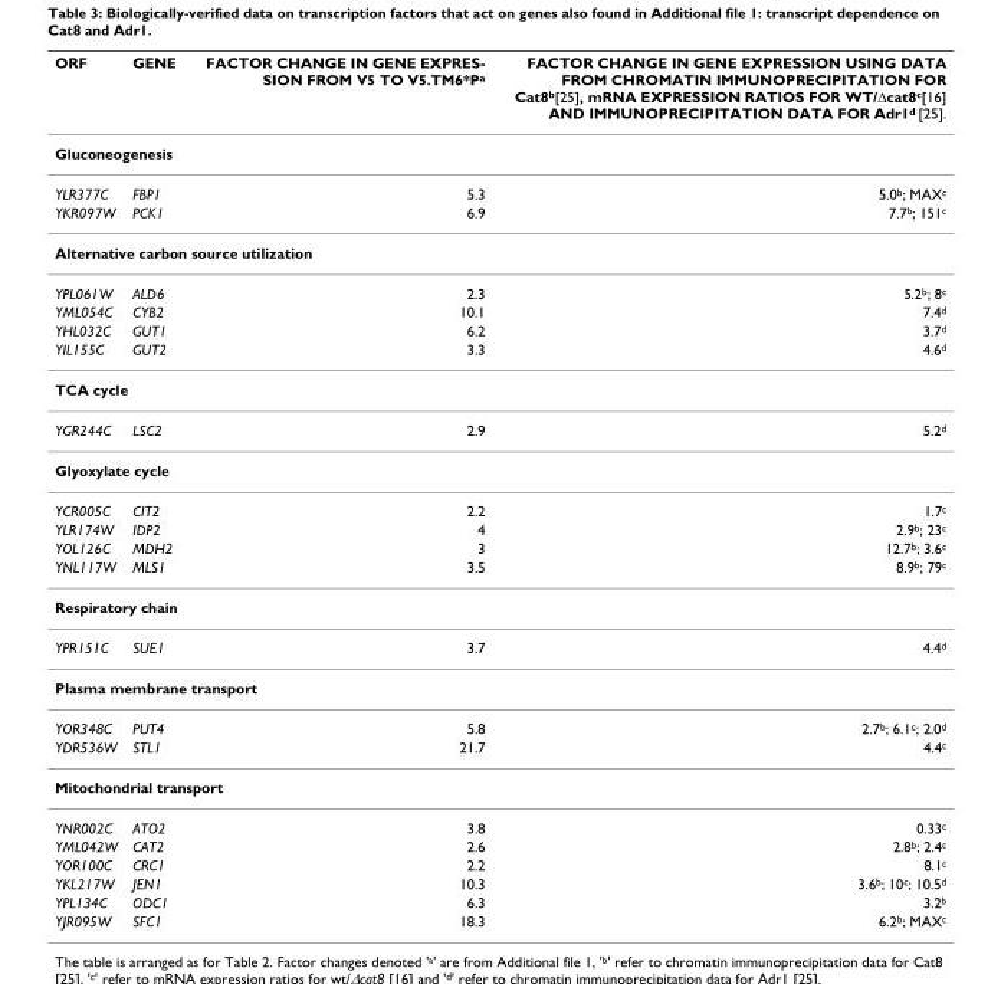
<table><thead><tr><td>ORF</td><td>GENE</td><td>FACTOR CHANGE IN GENE EXPRES- SION FROM V5 TO V5.TM6*Pa</td><td>FACTOR CHANGE IN GENE EXPRESSION USING DATA FROM CHROMATIN IMMUNOPRECIPITATION FOR Cat8<sup>b</sup>[25], mRNA EXPRESSION RATIOS FOR WT/Δcat8<sup>c</sup>[16] AND IMMUNOPRECIPITATION DATA FOR Adr1<sup>d</sup> [25].</td></tr></thead><tbody><tr><td colspan="4">Gluconeogenesis</td></tr><tr><td>YLR377C</td><td>FBP1</td><td>5.3</td><td>5.0<sup>b</sup>; MAX<sup>c</sup></td></tr><tr><td>YKR097W</td><td>PCK1</td><td>6.9</td><td>7.7<sup>b</sup>; 151<sup>c</sup></td></tr><tr><td colspan="4">Alternative carbon source utilization</td></tr><tr><td>YPL061W</td><td>ALD6</td><td>2.3</td><td>5.2<sup>b</sup>; 8<sup>c</sup></td></tr><tr><td>YML054C</td><td>CYB2</td><td>10.1</td><td>7.4<sup>d</sup></td></tr><tr><td>YHL032C</td><td>GUT1</td><td>6.2</td><td>3.7<sup>d</sup></td></tr><tr><td>YIL155C</td><td>GUT2</td><td>3.3</td><td>4.6<sup>d</sup></td></tr><tr><td colspan="4">TCA cycle</td></tr><tr><td>YGR244C</td><td>LSC2</td><td>2.9</td><td>5.2<sup>d</sup></td></tr><tr><td colspan="4">Glyoxylate cycle</td></tr><tr><td>YCR005C</td><td>CIT2</td><td>2.2</td><td>1.7<sup>c</sup></td></tr><tr><td>YLR174W</td><td>IDP2</td><td>4</td><td>2.9<sup>b</sup>; 23<sup>c</sup></td></tr><tr><td>YOL126C</td><td>MDH2</td><td>3</td><td>12.7<sup>b</sup>; 3.6<sup>c</sup></td></tr><tr><td>YNL117W</td><td>MLS1</td><td>3.5</td><td>8.9<sup>b</sup>; 79<sup>c</sup></td></tr><tr><td colspan="4">Respiratory chain</td></tr><tr><td>YPR151C</td><td>SUE1</td><td>3.7</td><td>4.4<sup>d</sup></td></tr><tr><td colspan="4">Plasma membrane transport</td></tr><tr><td>YOR348C</td><td>PUT4</td><td>5.8</td><td>2.7<sup>b</sup>; 6.1<sup>c</sup>; 2.0<sup>d</sup></td></tr><tr><td>YDR536W</td><td>STL1</td><td>21.7</td><td>4.4<sup>c</sup></td></tr><tr><td colspan="4">Mitochondrial transport</td></tr><tr><td>YNR002C</td><td>ATO2</td><td>3.8</td><td>0.33<sup>c</sup></td></tr><tr><td>YML042W</td><td>CAT2</td><td>2.6</td><td>2.8<sup>b</sup>; 2.4<sup>c</sup></td></tr><tr><td>YOR100C</td><td>CRC1</td><td>2.2</td><td>8.1<sup>c</sup></td></tr><tr><td>YKL217W</td><td>JEN1</td><td>10.3</td><td>3.6<sup>b</sup>; 10<sup>c</sup>; 10.5<sup>d</sup></td></tr><tr><td>YPL134C</td><td>ODC1</td><td>6.3</td><td>3.2<sup>b</sup></td></tr><tr><td>YJR095W</td><td>SFC1</td><td>18.3</td><td>6.2<sup>b</sup>; MAX<sup>c</sup></td></tr></tbody></table>